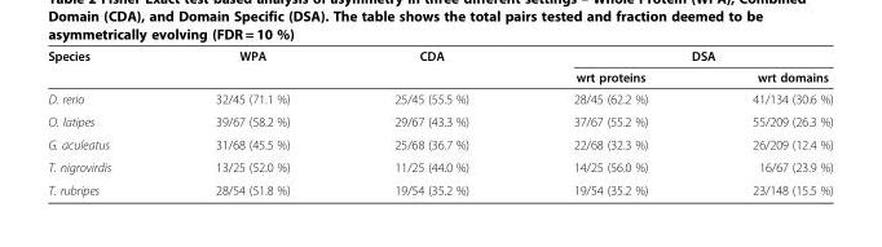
<table><thead><tr><td rowspan="2">Species</td><td rowspan="2">WPA</td><td rowspan="2">CDA</td><td colspan="2">DSA</td></tr><tr><td>wrt proteins</td><td>wrt domains</td></tr></thead><tbody><tr><td>D. rerio</td><td>32/45 (71.1 %)</td><td>25/45 (55.5 %)</td><td>28/45 (62.2 %)</td><td>41/134 (30.6 %)</td></tr><tr><td>O. latipes</td><td>39/67 (58.2 %)</td><td>29/67 (43.3 %)</td><td>37/67 (55.2 %)</td><td>55/209 (26.3 %)</td></tr><tr><td>G. aculeatus</td><td>31/68 (45.5 %)</td><td>25/68 (36.7 %)</td><td>22/68 (32.3 %)</td><td>26/209 (12.4 %)</td></tr><tr><td>T. nigrovirdis</td><td>13/25 (52.0 %)</td><td>11/25 (44.0 %)</td><td>14/25 (56.0 %)</td><td>16/67 (23.9 %)</td></tr><tr><td>T. rubripes</td><td>28/54 (51.8 %)</td><td>19/54 (35.2 %)</td><td>19/54 (35.2 %)</td><td>23/148 (15.5 %)</td></tr></tbody></table>